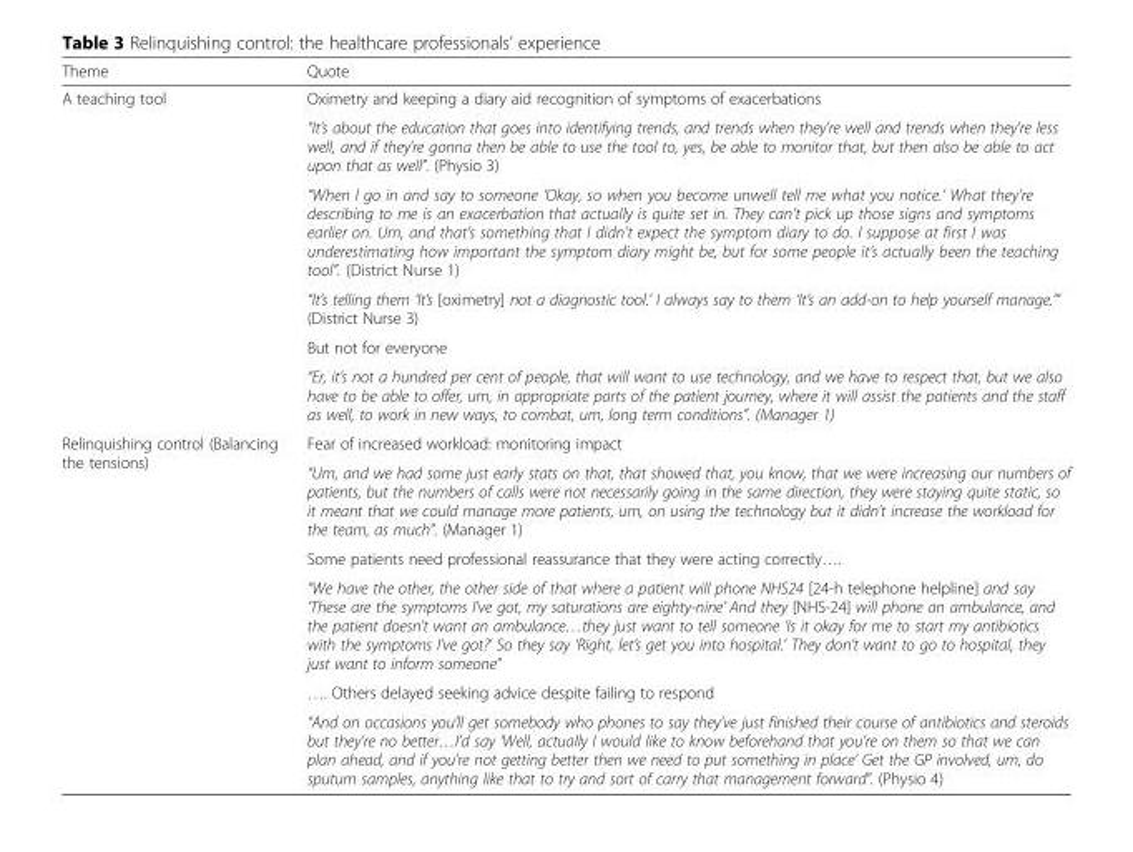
<table><thead><tr><td>Theme</td><td>Quote</td></tr></thead><tbody><tr><td rowspan="6">A teaching tool</td><td>Oximetry and keeping a diary aid recognition of symptoms of exacerbations</td></tr><tr><td>“It’s about the education that goes into identifying trends, and trends when they’re well and trends when they’re less well, and if they’re gonna then be able to use the tool to, yes, be able to monitor that, but then also be able to act upon that as well”. (Physio 3)</td></tr><tr><td>“When I go in and say to someone ‘Okay, so when you become unwell tell me what you notice.’ What they’re describing to me is an exacerbation that actually is quite set in. They can’t pick up those signs and symptoms earlier on. Um, and that’s something that I didn’t expect the symptom diary to do. I suppose at first I was underestimating how important the symptom diary might be, but for some people it’s actually been the teaching tool”. (District Nurse 1)</td></tr><tr><td>“It’s telling them ‘It’s [oximetry] not a diagnostic tool.’ I always say to them ‘It’s an add-on to help yourself manage.’” (District Nurse 3)</td></tr><tr><td>But not for everyone</td></tr><tr><td>“Er, it’s not a hundred per cent of people, that will want to use technology, and we have to respect that, but we also have to be able to offer, um, in appropriate parts of the patient journey, where it will assist the patients and the staff as well, to work in new ways, to combat, um, long term conditions”. (Manager 1)</td></tr><tr><td rowspan="6">Relinquishing control (Balancing the tensions)</td><td>Fear of increased workload: monitoring impact</td></tr><tr><td>“Um, and we had some just early stats on that, that showed that, you know, that we were increasing our numbers of patients, but the numbers of calls were not necessarily going in the same direction, they were staying quite static, so it meant that we could manage more patients, um, on using the technology but it didn’t increase the workload for the team, as much”. (Manager 1)</td></tr><tr><td>Some patients need professional reassurance that they were acting correctly….</td></tr><tr><td>“We have the other, the other side of that where a patient will phone NHS24 [24-h telephone helpline] and say ‘These are the symptoms I’ve got, my saturations are eighty-nine’ And they [NHS-24] will phone an ambulance, and the patient doesn’t want an ambulance…they just want to tell someone ‘Is it okay for me to start my antibiotics with the symptoms I’ve got?’ So they say ‘Right, let’s get you into hospital.’ They don’t want to go to hospital, they just want to inform someone”</td></tr><tr><td>…. Others delayed seeking advice despite failing to respond</td></tr><tr><td>“And on occasions you’ll get somebody who phones to say they’ve just finished their course of antibiotics and steroids but they’re no better…I’d say ‘Well, actually I would like to know beforehand that you’re on them so that we can plan ahead, and if you’re not getting better then we need to put something in place’ Get the GP involved, um, do sputum samples, anything like that to try and sort of carry that management forward”. (Physio 4)</td></tr></tbody></table>